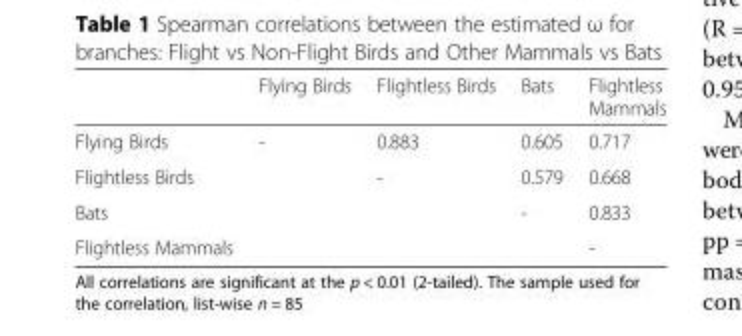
<table><thead><tr><td></td><td>Flying Birds</td><td>Flightless Birds</td><td>Bats</td><td>Flightless Mammals</td></tr></thead><tbody><tr><td>Flying Birds</td><td>-</td><td>0.883</td><td>0.605</td><td>0.717</td></tr><tr><td>Flightless Birds</td><td></td><td>-</td><td>0.579</td><td>0.668</td></tr><tr><td>Bats</td><td></td><td></td><td>-</td><td>0.833</td></tr><tr><td>Flightless Mammals</td><td></td><td></td><td></td><td>-</td></tr></tbody></table>